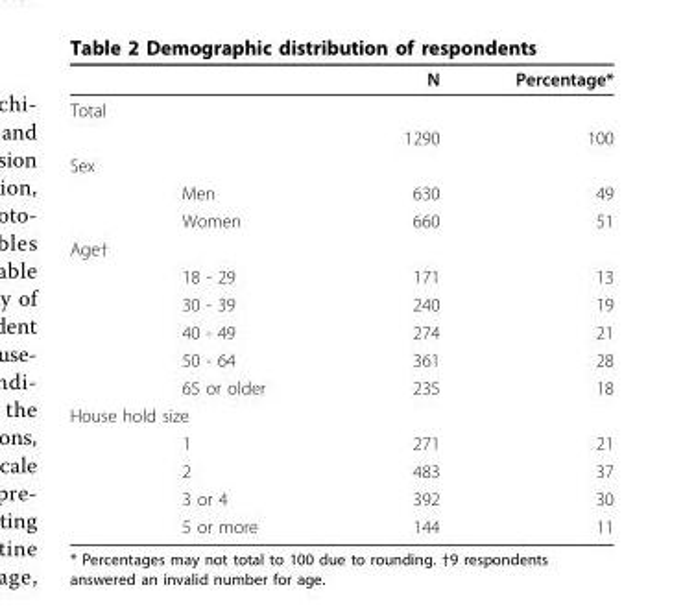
<table><thead><tr><td></td><td></td><td>N</td><td>Percentage*</td></tr></thead><tbody><tr><td colspan="4">Total</td></tr><tr><td></td><td></td><td>1290</td><td>100</td></tr><tr><td colspan="4">Sex</td></tr><tr><td></td><td>Men</td><td>630</td><td>49</td></tr><tr><td></td><td>Women</td><td>660</td><td>51</td></tr><tr><td colspan="4">Age†</td></tr><tr><td></td><td>18 - 29</td><td>171</td><td>13</td></tr><tr><td></td><td>30 - 39</td><td>240</td><td>19</td></tr><tr><td></td><td>40 - 49</td><td>274</td><td>21</td></tr><tr><td></td><td>50 - 64</td><td>361</td><td>28</td></tr><tr><td></td><td>65 or older</td><td>235</td><td>18</td></tr><tr><td colspan="4">House hold size</td></tr><tr><td></td><td>1</td><td>271</td><td>21</td></tr><tr><td></td><td>2</td><td>483</td><td>37</td></tr><tr><td></td><td>3 or 4</td><td>392</td><td>30</td></tr><tr><td></td><td>5 or more</td><td>144</td><td>11</td></tr></tbody></table>